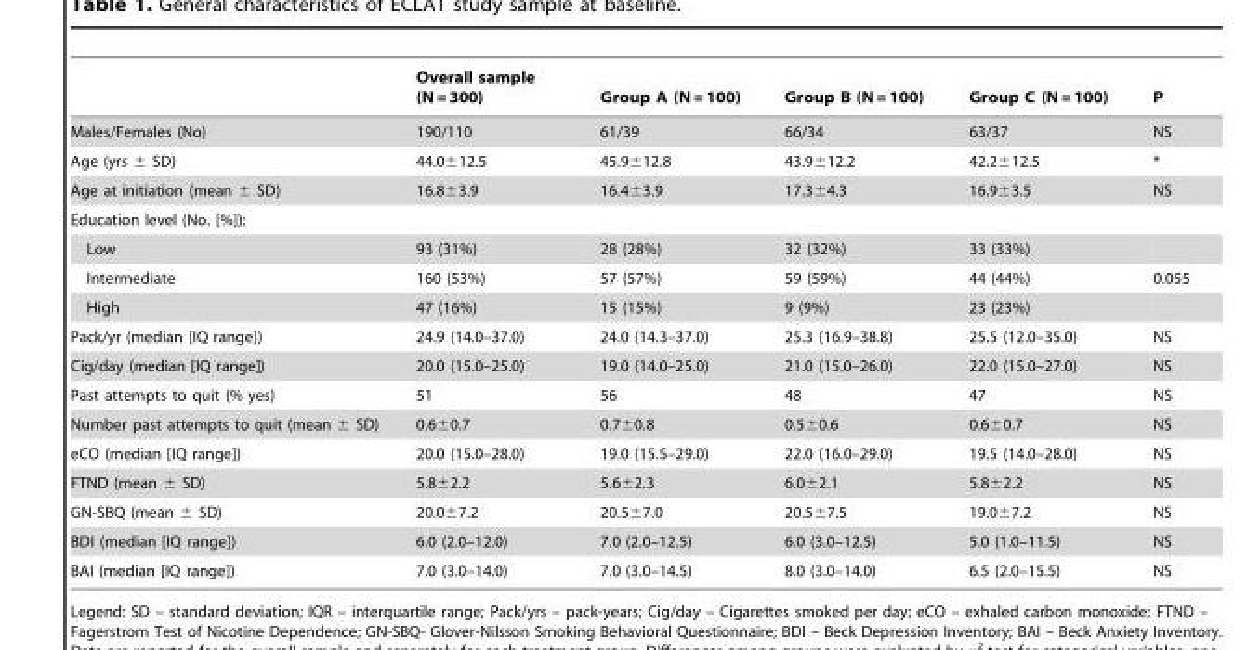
<table><thead><tr><td></td><td>Overall sample (N = 300)</td><td>Group A (N = 100)</td><td>Group B (N = 100)</td><td>Group C (N = 100)</td><td>P</td></tr></thead><tbody><tr><td>Males/Females (No)</td><td>190/110</td><td>61/39</td><td>66/34</td><td>63/37</td><td>NS</td></tr><tr><td>Age (yrs ± SD)</td><td>44.0±12.5</td><td>45.9±12.8</td><td>43.9±12.2</td><td>42.2±12.5</td><td>*</td></tr><tr><td>Age at initiation (mean ± SD)</td><td>16.8±3.9</td><td>16.4±3.9</td><td>17.3±4.3</td><td>16.9±3.5</td><td>NS</td></tr><tr><td colspan="6">Education level (No. [%]):</td></tr><tr><td>Low</td><td>93 (31%)</td><td>28 (28%)</td><td>32 (32%)</td><td>33 (33%)</td><td></td></tr><tr><td>Intermediate</td><td>160 (53%)</td><td>57 (57%)</td><td>59 (59%)</td><td>44 (44%)</td><td>0.055</td></tr><tr><td>High</td><td>47 (16%)</td><td>15 (15%)</td><td>9 (9%)</td><td>23 (23%)</td><td></td></tr><tr><td>Pack/yr (median [IQ range])</td><td>24.9 (14.0–37.0)</td><td>24.0 (14.3–37.0)</td><td>25.3 (16.9–38.8)</td><td>25.5 (12.0–35.0)</td><td>NS</td></tr><tr><td>Cig/day (median [IQ range])</td><td>20.0 (15.0–25.0)</td><td>19.0 (14.0–25.0)</td><td>21.0 (15.0–26.0)</td><td>22.0 (15.0–27.0)</td><td>NS</td></tr><tr><td>Past attempts to quit (% yes)</td><td>51</td><td>56</td><td>48</td><td>47</td><td>NS</td></tr><tr><td>Number past attempts to quit (mean ± SD)</td><td>0.6±0.7</td><td>0.7±0.8</td><td>0.5±0.6</td><td>0.6±0.7</td><td>NS</td></tr><tr><td>eCO (median [IQ range])</td><td>20.0 (15.0–28.0)</td><td>19.0 (15.5–29.0)</td><td>22.0 (16.0–29.0)</td><td>19.5 (14.0–28.0)</td><td>NS</td></tr><tr><td>FTND (mean ± SD)</td><td>5.8±2.2</td><td>5.6±2.3</td><td>6.0±2.1</td><td>5.8±2.2</td><td>NS</td></tr><tr><td>GN-SBQ (mean ± SD)</td><td>20.0±7.2</td><td>20.5±7.0</td><td>20.5±7.5</td><td>19.0±7.2</td><td>NS</td></tr><tr><td>BDI (median [IQ range])</td><td>6.0 (2.0–12.0)</td><td>7.0 (2.0–12.5)</td><td>6.0 (3.0–12.5)</td><td>5.0 (1.0–11.5)</td><td>NS</td></tr><tr><td>BAI (median [IQ range])</td><td>7.0 (3.0–14.0)</td><td>7.0 (3.0–14.5)</td><td>8.0 (3.0–14.0)</td><td>6.5 (2.0–15.5)</td><td>NS</td></tr></tbody></table>